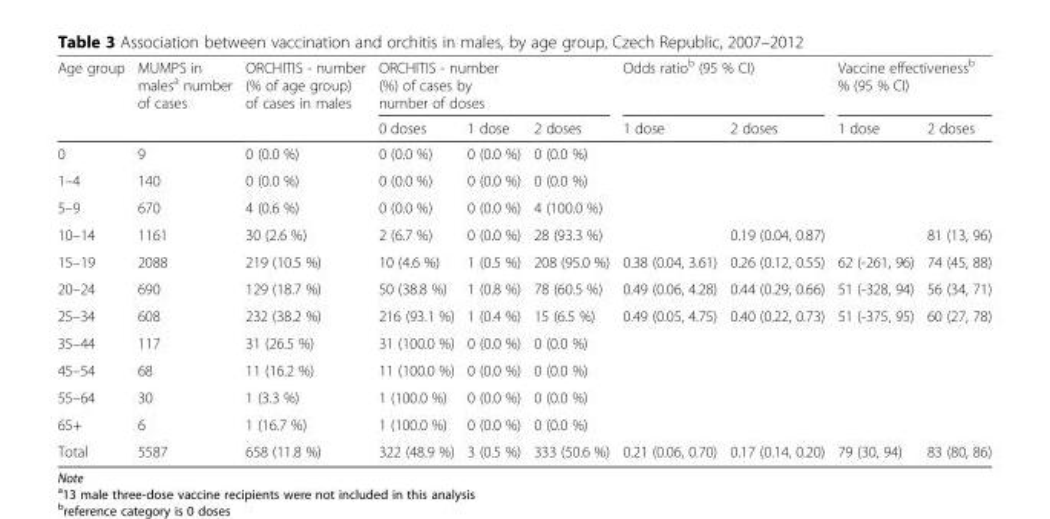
<table><thead><tr><td rowspan="2">Age group</td><td rowspan="2">MUMPS in males<sup>a</sup> number of cases</td><td rowspan="2">ORCHITIS - number (% of age group) of cases in males</td><td colspan="3">ORCHITIS - number (%) of cases by number of doses</td><td colspan="2">Odds ratio<sup>b</sup> (95 % CI)</td><td colspan="2">Vaccine effectiveness<sup>b</sup> % (95 % CI)</td></tr><tr><td>0 doses</td><td>1 dose</td><td>2 doses</td><td>1 dose</td><td>2 doses</td><td>1 dose</td><td>2 doses</td></tr></thead><tbody><tr><td>0</td><td>9</td><td>0 (0.0 %)</td><td>0 (0.0 %)</td><td>0 (0.0 %)</td><td>0 (0.0 %)</td><td></td><td></td><td></td><td></td></tr><tr><td>1–4</td><td>140</td><td>0 (0.0 %)</td><td>0 (0.0 %)</td><td>0 (0.0 %)</td><td>0 (0.0 %)</td><td></td><td></td><td></td><td></td></tr><tr><td>5–9</td><td>670</td><td>4 (0.6 %)</td><td>0 (0.0 %)</td><td>0 (0.0 %)</td><td>4 (100.0 %)</td><td></td><td></td><td></td><td></td></tr><tr><td>10–14</td><td>1161</td><td>30 (2.6 %)</td><td>2 (6.7 %)</td><td>0 (0.0 %)</td><td>28 (93.3 %)</td><td></td><td>0.19 (0.04, 0.87)</td><td></td><td>81 (13, 96)</td></tr><tr><td>15–19</td><td>2088</td><td>219 (10.5 %)</td><td>10 (4.6 %)</td><td>1 (0.5 %)</td><td>208 (95.0 %)</td><td>0.38 (0.04, 3.61)</td><td>0.26 (0.12, 0.55)</td><td>62 (-261, 96)</td><td>74 (45, 88)</td></tr><tr><td>20–24</td><td>690</td><td>129 (18.7 %)</td><td>50 (38.8 %)</td><td>1 (0.8 %)</td><td>78 (60.5 %)</td><td>0.49 (0.06, 4.28)</td><td>0.44 (0.29, 0.66)</td><td>51 (-328, 94)</td><td>56 (34, 71)</td></tr><tr><td>25–34</td><td>608</td><td>232 (38.2 %)</td><td>216 (93.1 %)</td><td>1 (0.4 %)</td><td>15 (6.5 %)</td><td>0.49 (0.05, 4.75)</td><td>0.40 (0.22, 0.73)</td><td>51 (-375, 95)</td><td>60 (27, 78)</td></tr><tr><td>35–44</td><td>117</td><td>31 (26.5 %)</td><td>31 (100.0 %)</td><td>0 (0.0 %)</td><td>0 (0.0 %)</td><td></td><td></td><td></td><td></td></tr><tr><td>45–54</td><td>68</td><td>11 (16.2 %)</td><td>11 (100.0 %)</td><td>0 (0.0 %)</td><td>0 (0.0 %)</td><td></td><td></td><td></td><td></td></tr><tr><td>55–64</td><td>30</td><td>1 (3.3 %)</td><td>1 (100.0 %)</td><td>0 (0.0 %)</td><td>0 (0.0 %)</td><td></td><td></td><td></td><td></td></tr><tr><td>65+</td><td>6</td><td>1 (16.7 %)</td><td>1 (100.0 %)</td><td>0 (0.0 %)</td><td>0 (0.0 %)</td><td></td><td></td><td></td><td></td></tr><tr><td>Total</td><td>5587</td><td>658 (11.8 %)</td><td>322 (48.9 %)</td><td>3 (0.5 %)</td><td>333 (50.6 %)</td><td>0.21 (0.06, 0.70)</td><td>0.17 (0.14, 0.20)</td><td>79 (30, 94)</td><td>83 (80, 86)</td></tr></tbody></table>